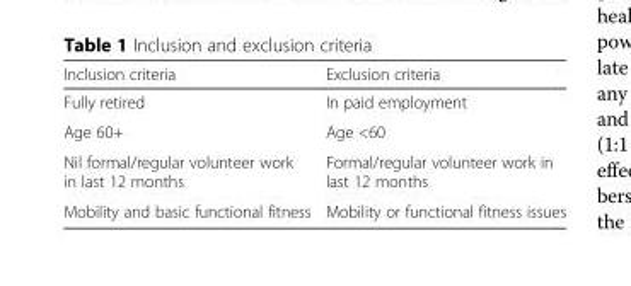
<table><thead><tr><td>Inclusion criteria</td><td>Exclusion criteria</td></tr></thead><tbody><tr><td>Fully retired</td><td>In paid employment</td></tr><tr><td>Age 60+</td><td>Age &lt;60</td></tr><tr><td>Nil formal/regular volunteer work in last 12 months</td><td>Formal/regular volunteer work in last 12 months</td></tr><tr><td>Mobility and basic functional fitness</td><td>Mobility or functional fitness issues</td></tr></tbody></table>